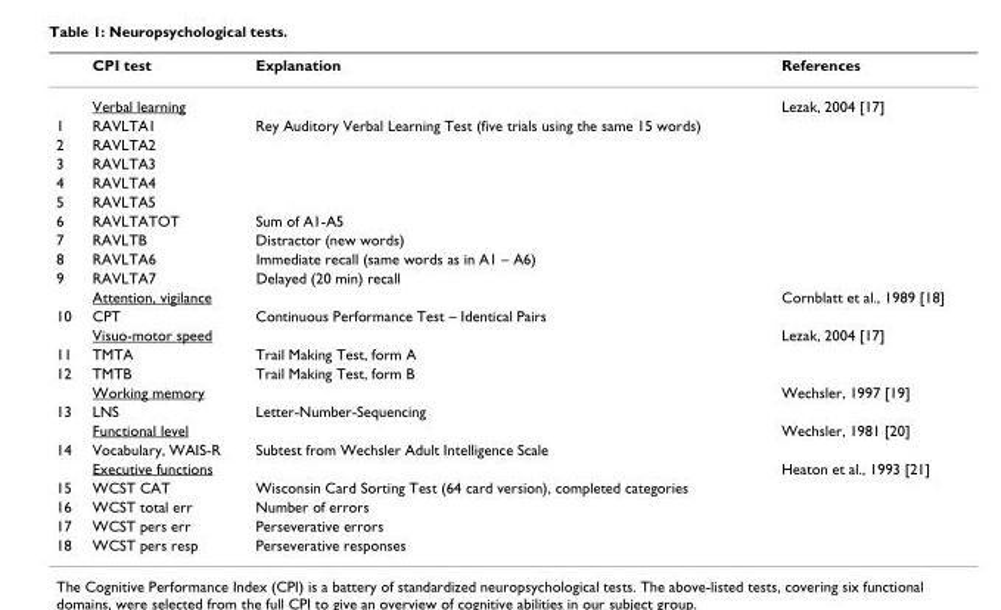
<table><thead><tr><td></td><td>CPI test</td><td>Explanation</td><td>References</td></tr></thead><tbody><tr><td></td><td>Verbal learning</td><td></td><td>Lezak, 2004 [17]</td></tr><tr><td>1</td><td>RAVLTA1</td><td>Rey Auditory Verbal Learning Test (five trials using the same 15 words)</td><td></td></tr><tr><td>2</td><td>RAVLTA2</td><td></td><td></td></tr><tr><td>3</td><td>RAVLTA3</td><td></td><td></td></tr><tr><td>4</td><td>RAVLTA4</td><td></td><td></td></tr><tr><td>5</td><td>RAVLTA5</td><td></td><td></td></tr><tr><td>6</td><td>RAVLTATOT</td><td>Sum of A1-A5</td><td></td></tr><tr><td>7</td><td>RAVLTB</td><td>Distractor (new words)</td><td></td></tr><tr><td>8</td><td>RAVLTA6</td><td>Immediate recall (same words as in A1 – A6)</td><td></td></tr><tr><td rowspan="2">9</td><td>RAVLTA7</td><td>Delayed (20 min) recall</td><td></td></tr><tr><td>Attention, vigilance</td><td></td><td>Cornblatt et al., 1989 [18]</td></tr><tr><td rowspan="2">10</td><td>CPT</td><td>Continuous Performance Test – Identical Pairs</td><td></td></tr><tr><td>Visuo-motor speed</td><td></td><td>Lezak, 2004 [17]</td></tr><tr><td>11</td><td>TMTA</td><td>Trail Making Test, form A</td><td></td></tr><tr><td rowspan="2">12</td><td>TMTB</td><td>Trail Making Test, form B</td><td></td></tr><tr><td>Working memory</td><td></td><td>Wechsler, 1997 [19]</td></tr><tr><td rowspan="2">13</td><td>LNS</td><td>Letter-Number-Sequencing</td><td></td></tr><tr><td>Functional level</td><td></td><td>Wechsler, 1981 [20]</td></tr><tr><td rowspan="2">14</td><td>Vocabulary, WAIS-R</td><td>Subtest from Wechsler Adult Intelligence Scale</td><td></td></tr><tr><td>Executive functions</td><td></td><td>Heaton et al., 1993 [21]</td></tr><tr><td>15</td><td>WCST CAT</td><td>Wisconsin Card Sorting Test (64 card version), completed categories</td><td></td></tr><tr><td>16</td><td>WCST total err</td><td>Number of errors</td><td></td></tr><tr><td>17</td><td>WCST pers err</td><td>Perseverative errors</td><td></td></tr><tr><td>18</td><td>WCST pers resp</td><td>Perseverative responses</td><td></td></tr></tbody></table>